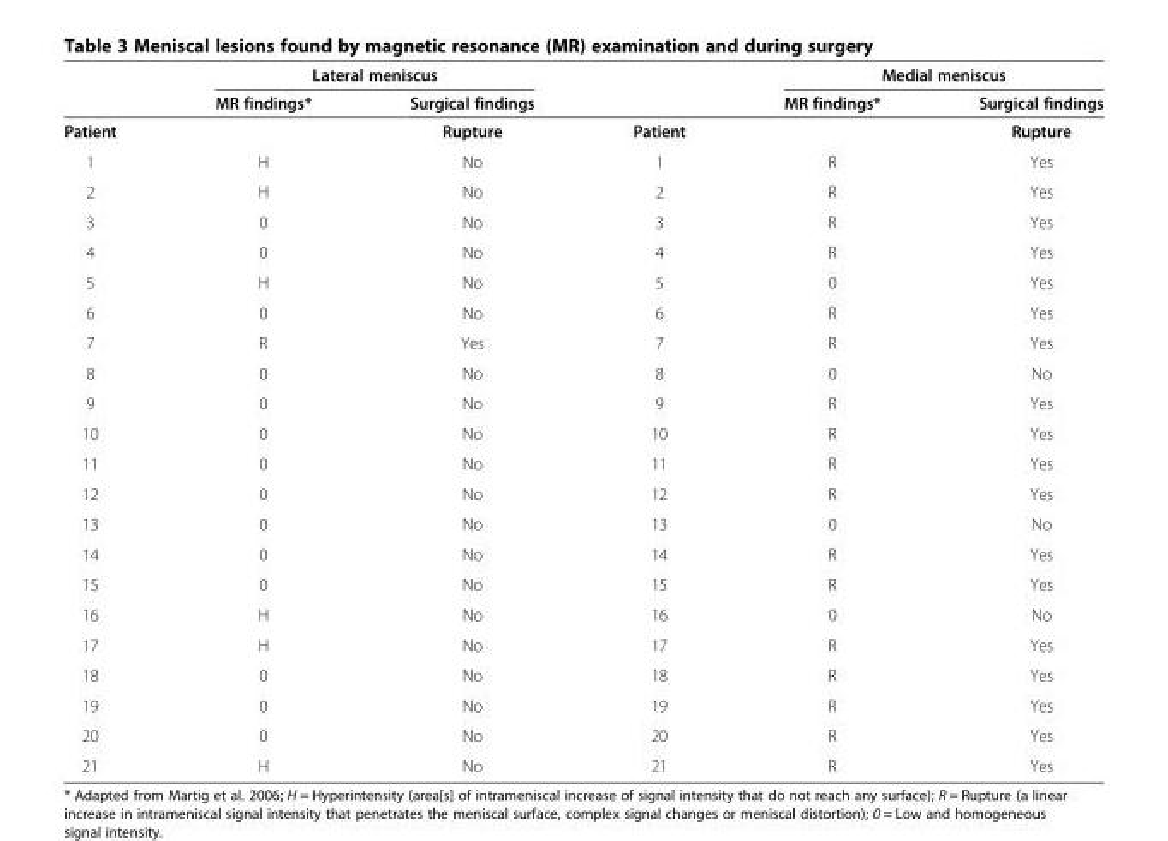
<table><thead><tr><td rowspan="2"></td><td colspan="2">Lateral meniscus</td><td rowspan="2"></td><td colspan="2">Medial meniscus</td></tr><tr><td>MR findings*</td><td>Surgical findings</td><td>MR findings*</td><td>Surgical findings</td></tr></thead><tbody><tr><td>Patient</td><td></td><td>Rupture</td><td>Patient</td><td></td><td>Rupture</td></tr><tr><td>1</td><td>H</td><td>No</td><td>1</td><td>R</td><td>Yes</td></tr><tr><td>2</td><td>H</td><td>No</td><td>2</td><td>R</td><td>Yes</td></tr><tr><td>3</td><td>0</td><td>No</td><td>3</td><td>R</td><td>Yes</td></tr><tr><td>4</td><td>0</td><td>No</td><td>4</td><td>R</td><td>Yes</td></tr><tr><td>5</td><td>H</td><td>No</td><td>5</td><td>0</td><td>Yes</td></tr><tr><td>6</td><td>0</td><td>No</td><td>6</td><td>R</td><td>Yes</td></tr><tr><td>7</td><td>R</td><td>Yes</td><td>7</td><td>R</td><td>Yes</td></tr><tr><td>8</td><td>0</td><td>No</td><td>8</td><td>0</td><td>No</td></tr><tr><td>9</td><td>0</td><td>No</td><td>9</td><td>R</td><td>Yes</td></tr><tr><td>10</td><td>0</td><td>No</td><td>10</td><td>R</td><td>Yes</td></tr><tr><td>11</td><td>0</td><td>No</td><td>11</td><td>R</td><td>Yes</td></tr><tr><td>12</td><td>0</td><td>No</td><td>12</td><td>R</td><td>Yes</td></tr><tr><td>13</td><td>0</td><td>No</td><td>13</td><td>0</td><td>No</td></tr><tr><td>14</td><td>0</td><td>No</td><td>14</td><td>R</td><td>Yes</td></tr><tr><td>15</td><td>0</td><td>No</td><td>15</td><td>R</td><td>Yes</td></tr><tr><td>16</td><td>H</td><td>No</td><td>16</td><td>0</td><td>No</td></tr><tr><td>17</td><td>H</td><td>No</td><td>17</td><td>R</td><td>Yes</td></tr><tr><td>18</td><td>0</td><td>No</td><td>18</td><td>R</td><td>Yes</td></tr><tr><td>19</td><td>0</td><td>No</td><td>19</td><td>R</td><td>Yes</td></tr><tr><td>20</td><td>0</td><td>No</td><td>20</td><td>R</td><td>Yes</td></tr><tr><td>21</td><td>H</td><td>No</td><td>21</td><td>R</td><td>Yes</td></tr></tbody></table>